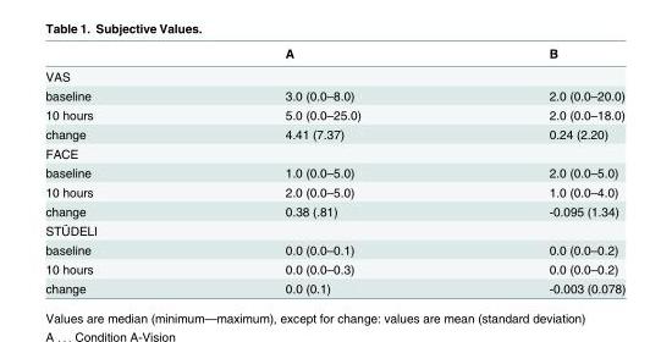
<table><thead><tr><td></td><td>A</td><td>B</td></tr></thead><tbody><tr><td colspan="3">VAS</td></tr><tr><td>baseline</td><td>3.0 (0.0–8.0)</td><td>2.0 (0.0–20.0)</td></tr><tr><td>10 hours</td><td>5.0 (0.0–25.0)</td><td>2.0 (0.0–18.0)</td></tr><tr><td>change</td><td>4.41 (7.37)</td><td>0.24 (2.20)</td></tr><tr><td colspan="3">FACE</td></tr><tr><td>baseline</td><td>1.0 (0.0–5.0)</td><td>2.0 (0.0–5.0)</td></tr><tr><td>10 hours</td><td>2.0 (0.0–5.0)</td><td>1.0 (0.0–4.0)</td></tr><tr><td>change</td><td>0.38 (.81)</td><td>-0.095 (1.34)</td></tr><tr><td colspan="3">STÜDELI</td></tr><tr><td>baseline</td><td>0.0 (0.0–0.1)</td><td>0.0 (0.0–0.2)</td></tr><tr><td>10 hours</td><td>0.0 (0.0–0.3)</td><td>0.0 (0.0–0.2)</td></tr><tr><td>change</td><td>0.0 (0.1)</td><td>-0.003 (0.078)</td></tr></tbody></table>